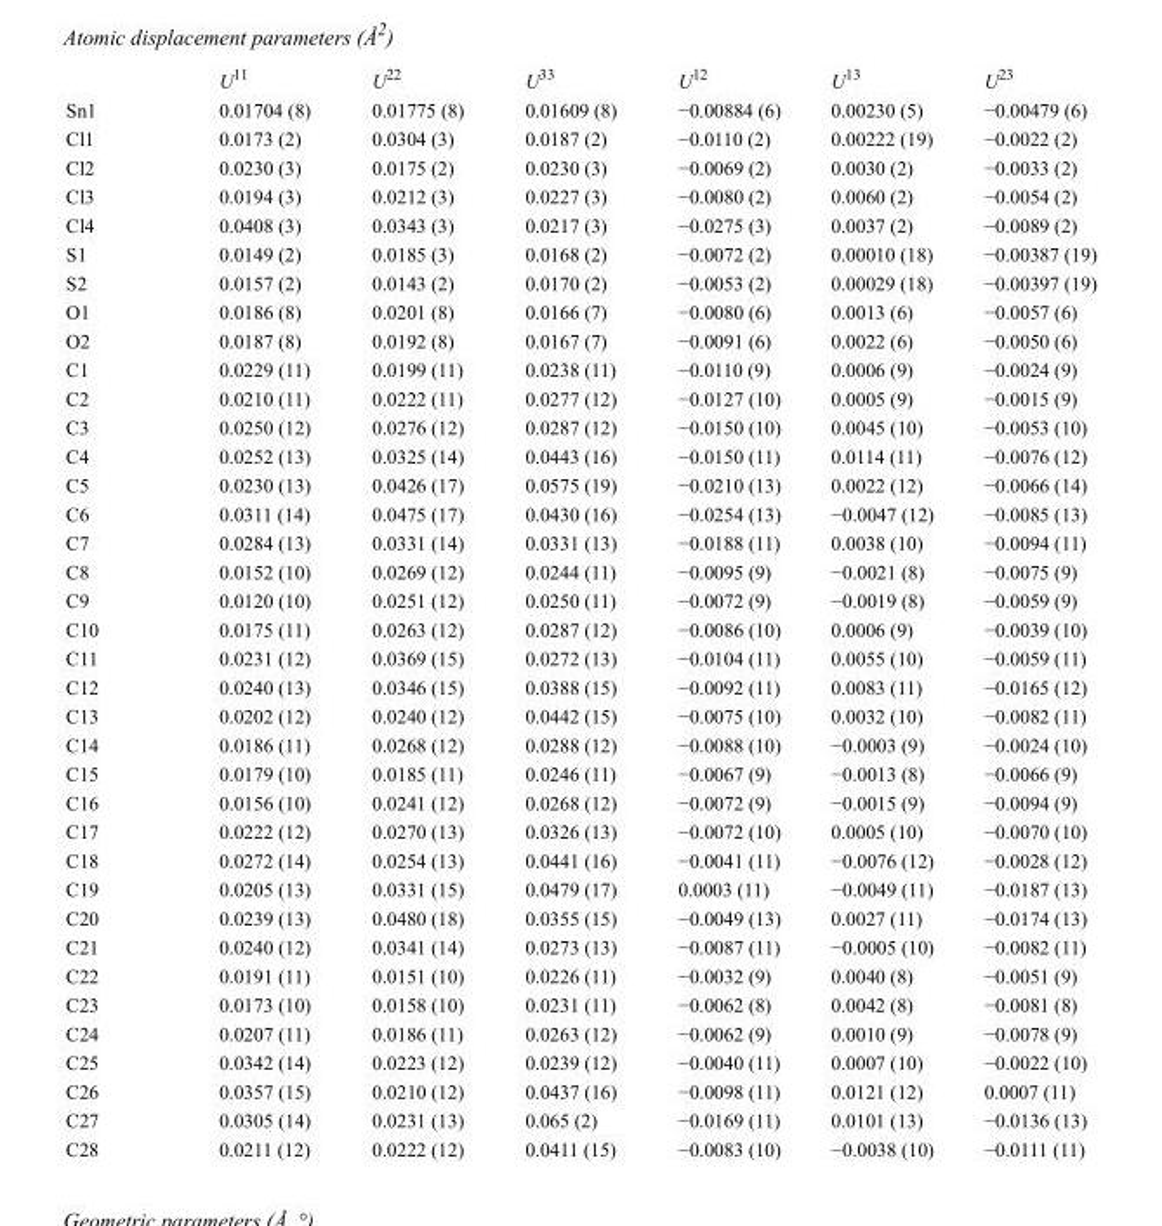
<table><thead><tr><td></td><td>U<sup>11</sup></td><td>U<sup>22</sup></td><td>U<sup>33</sup></td><td>U<sup>12</sup></td><td>U<sup>13</sup></td><td>U<sup>23</sup></td></tr></thead><tbody><tr><td>Sn1</td><td>0.01704 (8)</td><td>0.01775 (8)</td><td>0.01609 (8)</td><td>−0.00884 (6)</td><td>0.00230 (5)</td><td>−0.00479 (6)</td></tr><tr><td>Cl1</td><td>0.0173 (2)</td><td>0.0304 (3)</td><td>0.0187 (2)</td><td>−0.0110 (2)</td><td>0.00222 (19)</td><td>−0.0022 (2)</td></tr><tr><td>Cl2</td><td>0.0230 (3)</td><td>0.0175 (2)</td><td>0.0230 (3)</td><td>−0.0069 (2)</td><td>0.0030 (2)</td><td>−0.0033 (2)</td></tr><tr><td>Cl3</td><td>0.0194 (3)</td><td>0.0212 (3)</td><td>0.0227 (3)</td><td>−0.0080 (2)</td><td>0.0060 (2)</td><td>−0.0054 (2)</td></tr><tr><td>Cl4</td><td>0.0408 (3)</td><td>0.0343 (3)</td><td>0.0217 (3)</td><td>−0.0275 (3)</td><td>0.0037 (2)</td><td>−0.0089 (2)</td></tr><tr><td>S1</td><td>0.0149 (2)</td><td>0.0185 (3)</td><td>0.0168 (2)</td><td>−0.0072 (2)</td><td>0.00010 (18)</td><td>−0.00387 (19)</td></tr><tr><td>S2</td><td>0.0157 (2)</td><td>0.0143 (2)</td><td>0.0170 (2)</td><td>−0.0053 (2)</td><td>0.00029 (18)</td><td>−0.00397 (19)</td></tr><tr><td>O1</td><td>0.0186 (8)</td><td>0.0201 (8)</td><td>0.0166 (7)</td><td>−0.0080 (6)</td><td>0.0013 (6)</td><td>−0.0057 (6)</td></tr><tr><td>O2</td><td>0.0187 (8)</td><td>0.0192 (8)</td><td>0.0167 (7)</td><td>−0.0091 (6)</td><td>0.0022 (6)</td><td>−0.0050 (6)</td></tr><tr><td>C1</td><td>0.0229 (11)</td><td>0.0199 (11)</td><td>0.0238 (11)</td><td>−0.0110 (9)</td><td>0.0006 (9)</td><td>−0.0024 (9)</td></tr><tr><td>C2</td><td>0.0210 (11)</td><td>0.0222 (11)</td><td>0.0277 (12)</td><td>−0.0127 (10)</td><td>0.0005 (9)</td><td>−0.0015 (9)</td></tr><tr><td>C3</td><td>0.0250 (12)</td><td>0.0276 (12)</td><td>0.0287 (12)</td><td>−0.0150 (10)</td><td>0.0045 (10)</td><td>−0.0053 (10)</td></tr><tr><td>C4</td><td>0.0252 (13)</td><td>0.0325 (14)</td><td>0.0443 (16)</td><td>−0.0150 (11)</td><td>0.0114 (11)</td><td>−0.0076 (12)</td></tr><tr><td>C5</td><td>0.0230 (13)</td><td>0.0426 (17)</td><td>0.0575 (19)</td><td>−0.0210 (13)</td><td>0.0022 (12)</td><td>−0.0066 (14)</td></tr><tr><td>C6</td><td>0.0311 (14)</td><td>0.0475 (17)</td><td>0.0430 (16)</td><td>−0.0254 (13)</td><td>−0.0047 (12)</td><td>−0.0085 (13)</td></tr><tr><td>C7</td><td>0.0284 (13)</td><td>0.0331 (14)</td><td>0.0331 (13)</td><td>−0.0188 (11)</td><td>0.0038 (10)</td><td>−0.0094 (11)</td></tr><tr><td>C8</td><td>0.0152 (10)</td><td>0.0269 (12)</td><td>0.0244 (11)</td><td>−0.0095 (9)</td><td>−0.0021 (8)</td><td>−0.0075 (9)</td></tr><tr><td>C9</td><td>0.0120 (10)</td><td>0.0251 (12)</td><td>0.0250 (11)</td><td>−0.0072 (9)</td><td>−0.0019 (8)</td><td>−0.0059 (9)</td></tr><tr><td>C10</td><td>0.0175 (11)</td><td>0.0263 (12)</td><td>0.0287 (12)</td><td>−0.0086 (10)</td><td>0.0006 (9)</td><td>−0.0039 (10)</td></tr><tr><td>C11</td><td>0.0231 (12)</td><td>0.0369 (15)</td><td>0.0272 (13)</td><td>−0.0104 (11)</td><td>0.0055 (10)</td><td>−0.0059 (11)</td></tr><tr><td>C12</td><td>0.0240 (13)</td><td>0.0346 (15)</td><td>0.0388 (15)</td><td>−0.0092 (11)</td><td>0.0083 (11)</td><td>−0.0165 (12)</td></tr><tr><td>C13</td><td>0.0202 (12)</td><td>0.0240 (12)</td><td>0.0442 (15)</td><td>−0.0075 (10)</td><td>0.0032 (10)</td><td>−0.0082 (11)</td></tr><tr><td>C14</td><td>0.0186 (11)</td><td>0.0268 (12)</td><td>0.0288 (12)</td><td>−0.0088 (10)</td><td>−0.0003 (9)</td><td>−0.0024 (10)</td></tr><tr><td>C15</td><td>0.0179 (10)</td><td>0.0185 (11)</td><td>0.0246 (11)</td><td>−0.0067 (9)</td><td>−0.0013 (8)</td><td>−0.0066 (9)</td></tr><tr><td>C16</td><td>0.0156 (10)</td><td>0.0241 (12)</td><td>0.0268 (12)</td><td>−0.0072 (9)</td><td>−0.0015 (9)</td><td>−0.0094 (9)</td></tr><tr><td>C17</td><td>0.0222 (12)</td><td>0.0270 (13)</td><td>0.0326 (13)</td><td>−0.0072 (10)</td><td>0.0005 (10)</td><td>−0.0070 (10)</td></tr><tr><td>C18</td><td>0.0272 (14)</td><td>0.0254 (13)</td><td>0.0441 (16)</td><td>−0.0041 (11)</td><td>−0.0076 (12)</td><td>−0.0028 (12)</td></tr><tr><td>C19</td><td>0.0205 (13)</td><td>0.0331 (15)</td><td>0.0479 (17)</td><td>0.0003 (11)</td><td>−0.0049 (11)</td><td>−0.0187 (13)</td></tr><tr><td>C20</td><td>0.0239 (13)</td><td>0.0480 (18)</td><td>0.0355 (15)</td><td>−0.0049 (13)</td><td>0.0027 (11)</td><td>−0.0174 (13)</td></tr><tr><td>C21</td><td>0.0240 (12)</td><td>0.0341 (14)</td><td>0.0273 (13)</td><td>−0.0087 (11)</td><td>−0.0005 (10)</td><td>−0.0082 (11)</td></tr><tr><td>C22</td><td>0.0191 (11)</td><td>0.0151 (10)</td><td>0.0226 (11)</td><td>−0.0032 (9)</td><td>0.0040 (8)</td><td>−0.0051 (9)</td></tr><tr><td>C23</td><td>0.0173 (10)</td><td>0.0158 (10)</td><td>0.0231 (11)</td><td>−0.0062 (8)</td><td>0.0042 (8)</td><td>−0.0081 (8)</td></tr><tr><td>C24</td><td>0.0207 (11)</td><td>0.0186 (11)</td><td>0.0263 (12)</td><td>−0.0062 (9)</td><td>0.0010 (9)</td><td>−0.0078 (9)</td></tr><tr><td>C25</td><td>0.0342 (14)</td><td>0.0223 (12)</td><td>0.0239 (12)</td><td>−0.0040 (11)</td><td>0.0007 (10)</td><td>−0.0022 (10)</td></tr><tr><td>C26</td><td>0.0357 (15)</td><td>0.0210 (12)</td><td>0.0437 (16)</td><td>−0.0098 (11)</td><td>0.0121 (12)</td><td>0.0007 (11)</td></tr><tr><td>C27</td><td>0.0305 (14)</td><td>0.0231 (13)</td><td>0.065 (2)</td><td>−0.0169 (11)</td><td>0.0101 (13)</td><td>−0.0136 (13)</td></tr><tr><td>C28</td><td>0.0211 (12)</td><td>0.0222 (12)</td><td>0.0411 (15)</td><td>−0.0083 (10)</td><td>−0.0038 (10)</td><td>−0.0111 (11)</td></tr></tbody></table>